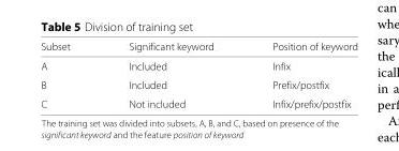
<table><thead><tr><td>Subset</td><td>Significant keyword</td><td>Position of keyword</td></tr></thead><tbody><tr><td>A</td><td>Included</td><td>Infix</td></tr><tr><td>B</td><td>Included</td><td>Prefix/postfix</td></tr><tr><td>C</td><td>Not included</td><td>Infix/prefix/postfix</td></tr></tbody></table>